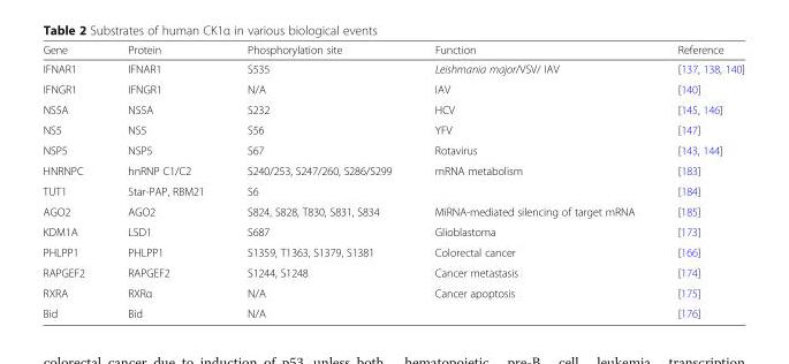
<table><thead><tr><td>Gene</td><td>Protein</td><td>Phosphorylation site</td><td>Function</td><td>Reference</td></tr></thead><tbody><tr><td>IFNAR1</td><td>IFNAR1</td><td>S535</td><td>Leishmania major/VSV/ IAV</td><td>[137, 138, 140]</td></tr><tr><td>IFNGR1</td><td>IFNGR1</td><td>N/A</td><td>IAV</td><td>[140]</td></tr><tr><td>NS5A</td><td>NS5A</td><td>S232</td><td>HCV</td><td>[145, 146]</td></tr><tr><td>NS5</td><td>NS5</td><td>S56</td><td>YFV</td><td>[147]</td></tr><tr><td>NSP5</td><td>NSP5</td><td>S67</td><td>Rotavirus</td><td>[143, 144]</td></tr><tr><td>HNRNPC</td><td>hnRNP C1/C2</td><td>S240/253, S247/260, S286/S299</td><td rowspan="2">mRNA metabolism</td><td>[183]</td></tr><tr><td>TUT1</td><td>Star-PAP, RBM21</td><td>S6</td><td>[184]</td></tr><tr><td>AGO2</td><td>AGO2</td><td>S824, S828, T830, S831, S834</td><td>MiRNA-mediated silencing of target mRNA</td><td>[185]</td></tr><tr><td>KDM1A</td><td>LSD1</td><td>S687</td><td>Glioblastoma</td><td>[173]</td></tr><tr><td>PHLPP1</td><td>PHLPP1</td><td>S1359, T1363, S1379, S1381</td><td>Colorectal cancer</td><td>[166]</td></tr><tr><td>RAPGEF2</td><td>RAPGEF2</td><td>S1244, S1248</td><td>Cancer metastasis</td><td>[174]</td></tr><tr><td>RXRA</td><td>RXRα</td><td>N/A</td><td rowspan="2">Cancer apoptosis</td><td>[175]</td></tr><tr><td>Bid</td><td>Bid</td><td>N/A</td><td>[176]</td></tr></tbody></table>